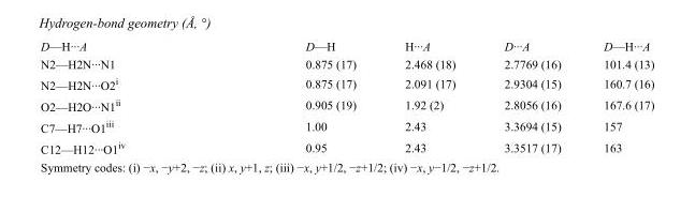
<table><tbody><tr><td>D—H···A</td><td>D—H</td><td>H···A</td><td>D···A</td><td>D—H···A</td></tr><tr><td>N2—H2N···N1</td><td>0.875 (17)</td><td>2.468 (18)</td><td>2.7769 (16)</td><td>101.4 (13)</td></tr><tr><td>N2—H2N···O2<sup>i</sup></td><td>0.875 (17)</td><td>2.091 (17)</td><td>2.9304 (15)</td><td>160.7 (16)</td></tr><tr><td>O2—H2O···N1<sup>ii</sup></td><td>0.905 (19)</td><td>1.92 (2)</td><td>2.8056 (16)</td><td>167.6 (17)</td></tr><tr><td>C7—H7···O1<sup>iii</sup></td><td>1.00</td><td>2.43</td><td>3.3694 (15)</td><td>157</td></tr><tr><td>C12—H12···O1<sup>iv</sup></td><td>0.95</td><td>2.43</td><td>3.3517 (17)</td><td>163</td></tr></tbody></table>